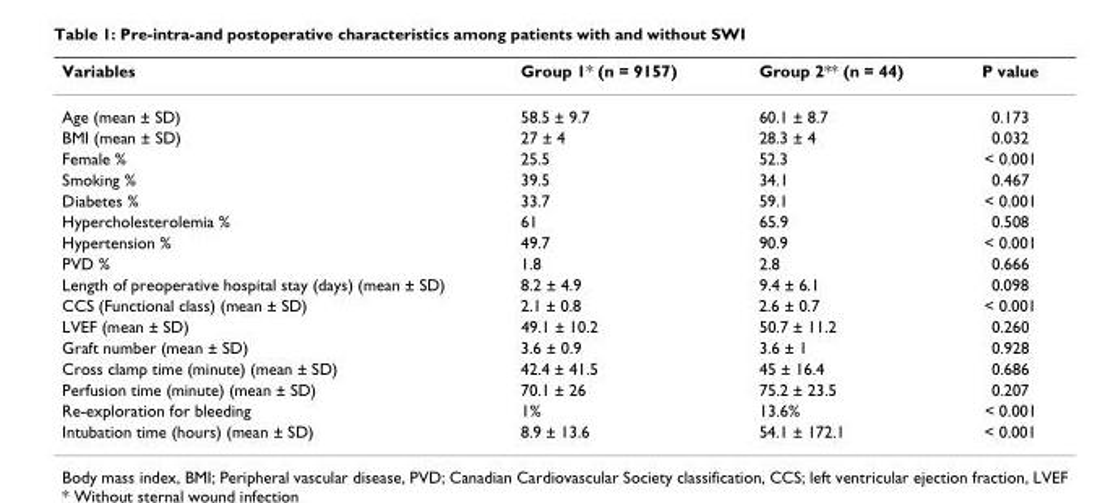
<table><thead><tr><td>Variables</td><td>Group 1* (n = 9157)</td><td>Group 2** (n = 44)</td><td>P value</td></tr></thead><tbody><tr><td>Age (mean ± SD)</td><td>58.5 ± 9.7</td><td>60.1 ± 8.7</td><td>0.173</td></tr><tr><td>BMI (mean ± SD)</td><td>27 ± 4</td><td>28.3 ± 4</td><td>0.032</td></tr><tr><td>Female %</td><td>25.5</td><td>52.3</td><td>&lt; 0.001</td></tr><tr><td>Smoking %</td><td>39.5</td><td>34.1</td><td>0.467</td></tr><tr><td>Diabetes %</td><td>33.7</td><td>59.1</td><td>&lt; 0.001</td></tr><tr><td>Hypercholesterolemia %</td><td>61</td><td>65.9</td><td>0.508</td></tr><tr><td>Hypertension %</td><td>49.7</td><td>90.9</td><td>&lt; 0.001</td></tr><tr><td>PVD %</td><td>1.8</td><td>2.8</td><td>0.666</td></tr><tr><td>Length of preoperative hospital stay (days) (mean ± SD)</td><td>8.2 ± 4.9</td><td>9.4 ± 6.1</td><td>0.098</td></tr><tr><td>CCS (Functional class) (mean ± SD)</td><td>2.1 ± 0.8</td><td>2.6 ± 0.7</td><td>&lt; 0.001</td></tr><tr><td>LVEF (mean ± SD)</td><td>49.1 ± 10.2</td><td>50.7 ± 11.2</td><td>0.260</td></tr><tr><td>Graft number (mean ± SD)</td><td>3.6 ± 0.9</td><td>3.6 ± 1</td><td>0.928</td></tr><tr><td>Cross clamp time (minute) (mean ± SD)</td><td>42.4 ± 41.5</td><td>45 ± 16.4</td><td>0.686</td></tr><tr><td>Perfusion time (minute) (mean ± SD)</td><td>70.1 ± 26</td><td>75.2 ± 23.5</td><td>0.207</td></tr><tr><td>Re-exploration for bleeding</td><td>1%</td><td>13.6%</td><td>&lt; 0.001</td></tr><tr><td>Intubation time (hours) (mean ± SD)</td><td>8.9 ± 13.6</td><td>54.1 ± 172.1</td><td>&lt; 0.001</td></tr></tbody></table>